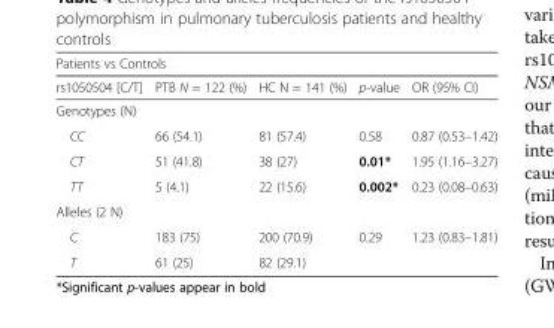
<table><thead><tr><td colspan="5">Patients vs Controls</td></tr><tr><td>rs1050504 [C/T]</td><td>PTB N = 122 (%)</td><td>HC N = 141 (%)</td><td>p-value</td><td>OR (95% CI)</td></tr></thead><tbody><tr><td colspan="5">Genotypes (N)</td></tr><tr><td>CC</td><td>66 (54.1)</td><td>81 (57.4)</td><td>0.58</td><td>0.87 (0.53–1.42)</td></tr><tr><td>CT</td><td>51 (41.8)</td><td>38 (27)</td><td>0.01*</td><td>1.95 (1.16–3.27)</td></tr><tr><td>TT</td><td>5 (4.1)</td><td>22 (15.6)</td><td>0.002*</td><td>0.23 (0.08–0.63)</td></tr><tr><td colspan="5">Alleles (2 N)</td></tr><tr><td>C</td><td>183 (75)</td><td>200 (70.9)</td><td>0.29</td><td>1.23 (0.83–1.81)</td></tr><tr><td>T</td><td>61 (25)</td><td>82 (29.1)</td><td></td><td></td></tr></tbody></table>